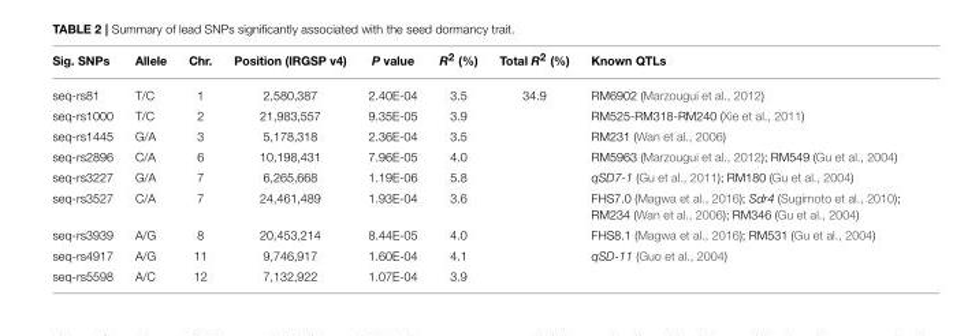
<table><thead><tr><td>Sig. SNPs</td><td>Allele</td><td>Chr.</td><td>Position (IRGSP v4)</td><td>P value</td><td>R<sup>2</sup> (%)</td><td>Total R<sup>2</sup> (%)</td><td>Known QTLs</td></tr></thead><tbody><tr><td>seq-rs81</td><td>T/C</td><td>1</td><td>2,580,387</td><td>2.40E-04</td><td>3.5</td><td>34.9</td><td>RM6902 (Marzougui et al., 2012)</td></tr><tr><td>seq-rs1000</td><td>T/C</td><td>2</td><td>21,983,557</td><td>9.35E-05</td><td>3.9</td><td></td><td>RM525-RM318-RM240 (Xie et al., 2011)</td></tr><tr><td>seq-rs1445</td><td>G/A</td><td>3</td><td>5,178,318</td><td>2.36E-04</td><td>3.5</td><td></td><td>RM231 (Wan et al., 2006)</td></tr><tr><td>seq-rs2896</td><td>C/A</td><td>6</td><td>10,198,431</td><td>7.96E-05</td><td>4.0</td><td></td><td>RM5963 (Marzougui et al., 2012); RM549 (Gu et al., 2004)</td></tr><tr><td>seq-rs3227</td><td>G/A</td><td>7</td><td>6,265,668</td><td>1.19E-06</td><td>5.8</td><td></td><td>qSD7-1 (Gu et al., 2011); RM180 (Gu et al., 2004)</td></tr><tr><td>seq-rs3527</td><td>C/A</td><td>7</td><td>24,461,489</td><td>1.93E-04</td><td>3.6</td><td></td><td>FHS7.0 (Magwa et al., 2016); Sdr4 (Sugimoto et al., 2010); RM234 (Wan et al., 2006); RM346 (Gu et al., 2004)</td></tr><tr><td>seq-rs3939</td><td>A/G</td><td>8</td><td>20,453,214</td><td>8.44E-05</td><td>4.0</td><td></td><td>FHS8.1 (Magwa et al., 2016); RM531 (Gu et al., 2004)</td></tr><tr><td>seq-rs4917</td><td>A/G</td><td>11</td><td>9,746,917</td><td>1.60E-04</td><td>4.1</td><td></td><td>qSD-11 (Guo et al., 2004)</td></tr><tr><td>seq-rs5598</td><td>A/C</td><td>12</td><td>7,132,922</td><td>1.07E-04</td><td>3.9</td><td></td><td></td></tr></tbody></table>